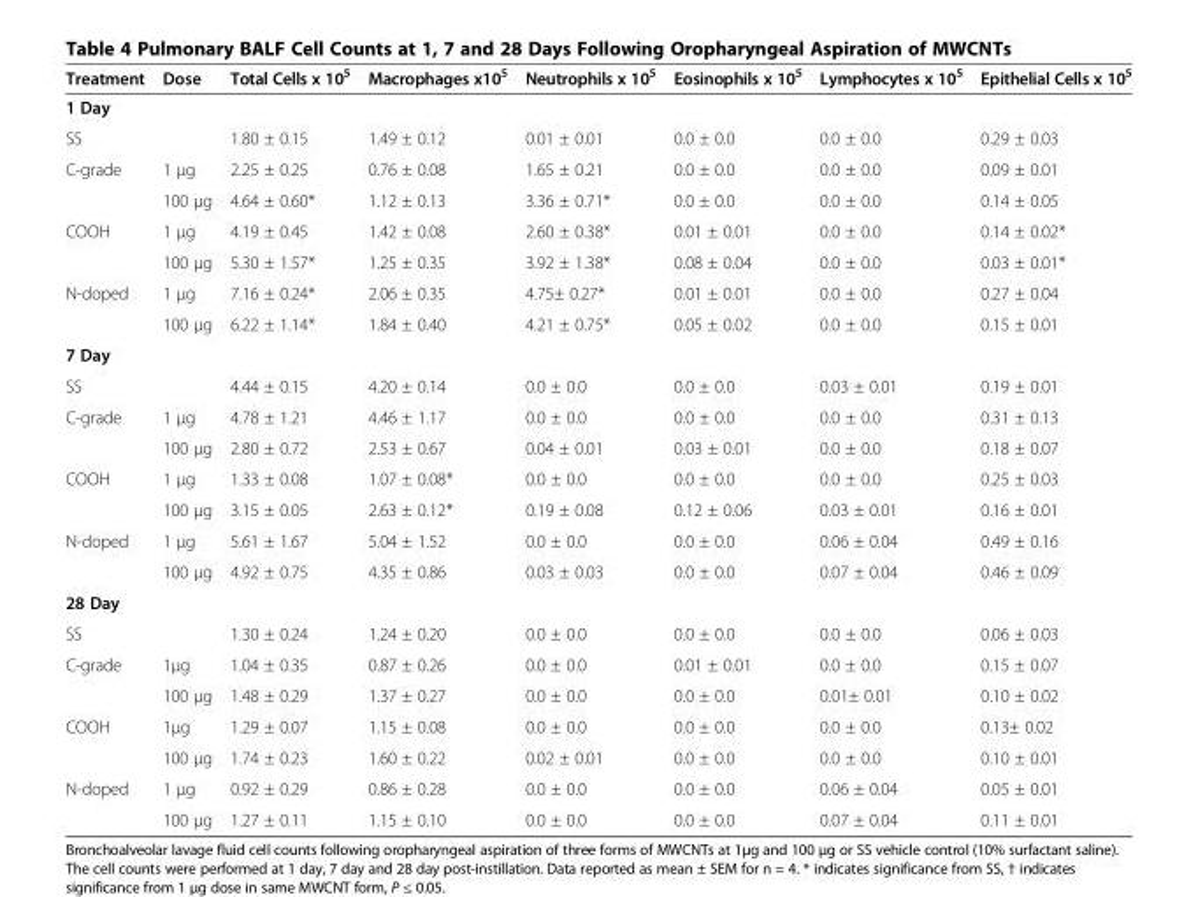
<table><thead><tr><td>Treatment</td><td>Dose</td><td>Total Cells x 10<sup>5</sup></td><td>Macrophages x10<sup>5</sup></td><td>Neutrophils x 10<sup>5</sup></td><td>Eosinophils x 10<sup>5</sup></td><td>Lymphocytes x 10<sup>5</sup></td><td>Epithelial Cells x 10<sup>5</sup></td></tr></thead><tbody><tr><td colspan="8">1 Day</td></tr><tr><td>SS</td><td></td><td>1.80 ± 0.15</td><td>1.49 ± 0.12</td><td>0.01 ± 0.01</td><td>0.0 ± 0.0</td><td>0.0 ± 0.0</td><td>0.29 ± 0.03</td></tr><tr><td rowspan="2">C-grade</td><td>1 μg</td><td>2.25 ± 0.25</td><td>0.76 ± 0.08</td><td>1.65 ± 0.21</td><td>0.0 ± 0.0</td><td>0.0 ± 0.0</td><td>0.09 ± 0.01</td></tr><tr><td>100 μg</td><td>4.64 ± 0.60*</td><td>1.12 ± 0.13</td><td>3.36 ± 0.71*</td><td>0.0 ± 0.0</td><td>0.0 ± 0.0</td><td>0.14 ± 0.05</td></tr><tr><td rowspan="2">COOH</td><td>1 μg</td><td>4.19 ± 0.45</td><td>1.42 ± 0.08</td><td>2.60 ± 0.38*</td><td>0.01 ± 0.01</td><td>0.0 ± 0.0</td><td>0.14 ± 0.02*</td></tr><tr><td>100 μg</td><td>5.30 ± 1.57*</td><td>1.25 ± 0.35</td><td>3.92 ± 1.38*</td><td>0.08 ± 0.04</td><td>0.0 ± 0.0</td><td>0.03 ± 0.01*</td></tr><tr><td rowspan="2">N-doped</td><td>1 μg</td><td>7.16 ± 0.24*</td><td>2.06 ± 0.35</td><td>4.75± 0.27*</td><td>0.01 ± 0.01</td><td>0.0 ± 0.0</td><td>0.27 ± 0.04</td></tr><tr><td>100 μg</td><td>6.22 ± 1.14*</td><td>1.84 ± 0.40</td><td>4.21 ± 0.75*</td><td>0.05 ± 0.02</td><td>0.0 ± 0.0</td><td>0.15 ± 0.01</td></tr><tr><td colspan="8">7 Day</td></tr><tr><td>SS</td><td></td><td>4.44 ± 0.15</td><td>4.20 ± 0.14</td><td>0.0 ± 0.0</td><td>0.0 ± 0.0</td><td>0.03 ± 0.01</td><td>0.19 ± 0.01</td></tr><tr><td rowspan="2">C-grade</td><td>1 μg</td><td>4.78 ± 1.21</td><td>4.46 ± 1.17</td><td>0.0 ± 0.0</td><td>0.0 ± 0.0</td><td>0.0 ± 0.0</td><td>0.31 ± 0.13</td></tr><tr><td>100 μg</td><td>2.80 ± 0.72</td><td>2.53 ± 0.67</td><td>0.04 ± 0.01</td><td>0.03 ± 0.01</td><td>0.0 ± 0.0</td><td>0.18 ± 0.07</td></tr><tr><td rowspan="2">COOH</td><td>1 μg</td><td>1.33 ± 0.08</td><td>1.07 ± 0.08*</td><td>0.0 ± 0.0</td><td>0.0 ± 0.0</td><td>0.0 ± 0.0</td><td>0.25 ± 0.03</td></tr><tr><td>100 μg</td><td>3.15 ± 0.05</td><td>2.63 ± 0.12*</td><td>0.19 ± 0.08</td><td>0.12 ± 0.06</td><td>0.03 ± 0.01</td><td>0.16 ± 0.01</td></tr><tr><td rowspan="2">N-doped</td><td>1 μg</td><td>5.61 ± 1.67</td><td>5.04 ± 1.52</td><td>0.0 ± 0.0</td><td>0.0 ± 0.0</td><td>0.06 ± 0.04</td><td>0.49 ± 0.16</td></tr><tr><td>100 μg</td><td>4.92 ± 0.75</td><td>4.35 ± 0.86</td><td>0.03 ± 0.03</td><td>0.0 ± 0.0</td><td>0.07 ± 0.04</td><td>0.46 ± 0.09</td></tr><tr><td colspan="8">28 Day</td></tr><tr><td>SS</td><td></td><td>1.30 ± 0.24</td><td>1.24 ± 0.20</td><td>0.0 ± 0.0</td><td>0.0 ± 0.0</td><td>0.0 ± 0.0</td><td>0.06 ± 0.03</td></tr><tr><td rowspan="2">C-grade</td><td>1μg</td><td>1.04 ± 0.35</td><td>0.87 ± 0.26</td><td>0.0 ± 0.0</td><td>0.01 ± 0.01</td><td>0.0 ± 0.0</td><td>0.15 ± 0.07</td></tr><tr><td>100 μg</td><td>1.48 ± 0.29</td><td>1.37 ± 0.27</td><td>0.0 ± 0.0</td><td>0.0 ± 0.0</td><td>0.01± 0.01</td><td>0.10 ± 0.02</td></tr><tr><td rowspan="2">COOH</td><td>1μg</td><td>1.29 ± 0.07</td><td>1.15 ± 0.08</td><td>0.0 ± 0.0</td><td>0.0 ± 0.0</td><td>0.0 ± 0.0</td><td>0.13± 0.02</td></tr><tr><td>100 μg</td><td>1.74 ± 0.23</td><td>1.60 ± 0.22</td><td>0.02 ± 0.01</td><td>0.0 ± 0.0</td><td>0.0 ± 0.0</td><td>0.10 ± 0.01</td></tr><tr><td rowspan="2">N-doped</td><td>1 μg</td><td>0.92 ± 0.29</td><td>0.86 ± 0.28</td><td>0.0 ± 0.0</td><td>0.0 ± 0.0</td><td>0.06 ± 0.04</td><td>0.05 ± 0.01</td></tr><tr><td>100 μg</td><td>1.27 ± 0.11</td><td>1.15 ± 0.10</td><td>0.0 ± 0.0</td><td>0.0 ± 0.0</td><td>0.07 ± 0.04</td><td>0.11 ± 0.01</td></tr></tbody></table>